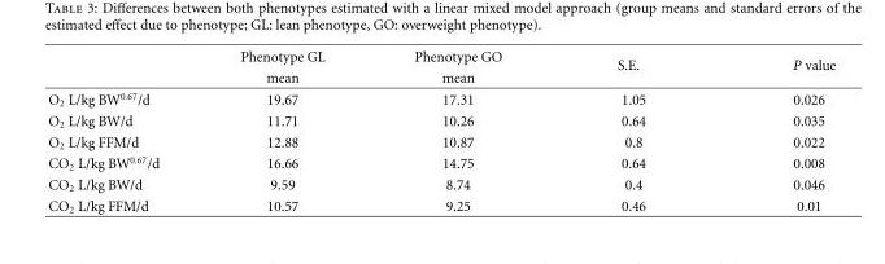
<table><thead><tr><td rowspan="2"></td><td rowspan="2">Phenotype GL mean</td><td rowspan="2">Phenotype GO mean</td><td rowspan="2">S.E.</td><td rowspan="2">P value</td></tr><tr></tr></thead><tbody><tr><td>O<sub>2</sub> L/kg BW<sup>0.67</sup>/d</td><td>19.67</td><td>17.31</td><td>1.05</td><td>0.026</td></tr><tr><td>O<sub>2</sub> L/kg BW/d</td><td>11.71</td><td>10.26</td><td>0.64</td><td>0.035</td></tr><tr><td>O<sub>2</sub> L/kg FFM/d</td><td>12.88</td><td>10.87</td><td>0.8</td><td>0.022</td></tr><tr><td>CO<sub>2</sub> L/kg BW<sup>0.67</sup>/d</td><td>16.66</td><td>14.75</td><td>0.64</td><td>0.008</td></tr><tr><td>CO<sub>2</sub> L/kg BW/d</td><td>9.59</td><td>8.74</td><td>0.4</td><td>0.046</td></tr><tr><td>CO<sub>2</sub> L/kg FFM/d</td><td>10.57</td><td>9.25</td><td>0.46</td><td>0.01</td></tr></tbody></table>